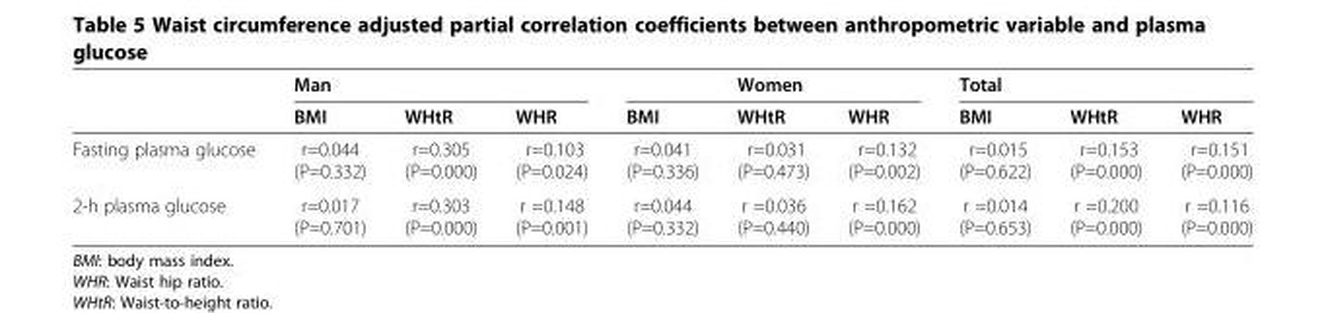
<table><thead><tr><td rowspan="2"></td><td rowspan="2">Man BMI</td><td rowspan="2">WHtR</td><td rowspan="2">WHR</td><td rowspan="2">BMI</td><td rowspan="2">Women WHtR</td><td rowspan="2">WHR</td><td rowspan="2">Total BMI</td><td rowspan="2">WHtR</td><td rowspan="2">WHR</td></tr><tr></tr></thead><tbody><tr><td>Fasting plasma glucose</td><td>r=0.044 (P=0.332)</td><td>r=0.305 (P=0.000)</td><td>r=0.103 (P=0.024)</td><td>r=0.041 (P=0.336)</td><td>r=0.031 (P=0.473)</td><td>r=0.132 (P=0.002)</td><td>r=0.015 (P=0.622)</td><td>r=0.153 (P=0.000)</td><td>r=0.151 (P=0.000)</td></tr><tr><td>2-h plasma glucose</td><td>r=0.017 (P=0.701)</td><td>r=0.303 (P=0.000)</td><td>r =0.148 (P=0.001)</td><td>r=0.044 (P=0.332)</td><td>r =0.036 (P=0.440)</td><td>r =0.162 (P=0.000)</td><td>r =0.014 (P=0.653)</td><td>r =0.200 (P=0.000)</td><td>r =0.116 (P=0.000)</td></tr></tbody></table>